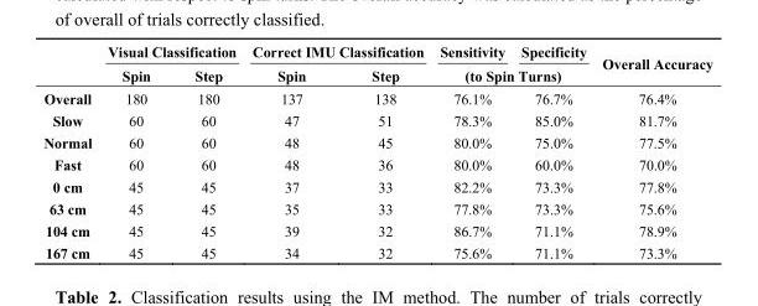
<table><thead><tr><td rowspan="2"></td><td colspan="2">Visual Classification</td><td colspan="2">Correct IMU Classification</td><td>Sensitivity</td><td>Specificity</td><td rowspan="2">Overall Accuracy</td></tr><tr><td>Spin</td><td>Step</td><td>Spin</td><td>Step</td><td colspan="2">(to Spin Turns)</td></tr></thead><tbody><tr><td>Overall</td><td>180</td><td>180</td><td>137</td><td>138</td><td>76.1%</td><td>76.7%</td><td>76.4%</td></tr><tr><td>Slow</td><td>60</td><td>60</td><td>47</td><td>51</td><td>78.3%</td><td>85.0%</td><td>81.7%</td></tr><tr><td>Normal</td><td>60</td><td>60</td><td>48</td><td>45</td><td>80.0%</td><td>75.0%</td><td>77.5%</td></tr><tr><td>Fast</td><td>60</td><td>60</td><td>48</td><td>36</td><td>80.0%</td><td>60.0%</td><td>70.0%</td></tr><tr><td>0 cm</td><td>45</td><td>45</td><td>37</td><td>33</td><td>82.2%</td><td>73.3%</td><td>77.8%</td></tr><tr><td>63 cm</td><td>45</td><td>45</td><td>35</td><td>33</td><td>77.8%</td><td>73.3%</td><td>75.6%</td></tr><tr><td>104 cm</td><td>45</td><td>45</td><td>39</td><td>32</td><td>86.7%</td><td>71.1%</td><td>78.9%</td></tr><tr><td>167 cm</td><td>45</td><td>45</td><td>34</td><td>32</td><td>75.6%</td><td>71.1%</td><td>73.3%</td></tr></tbody></table>